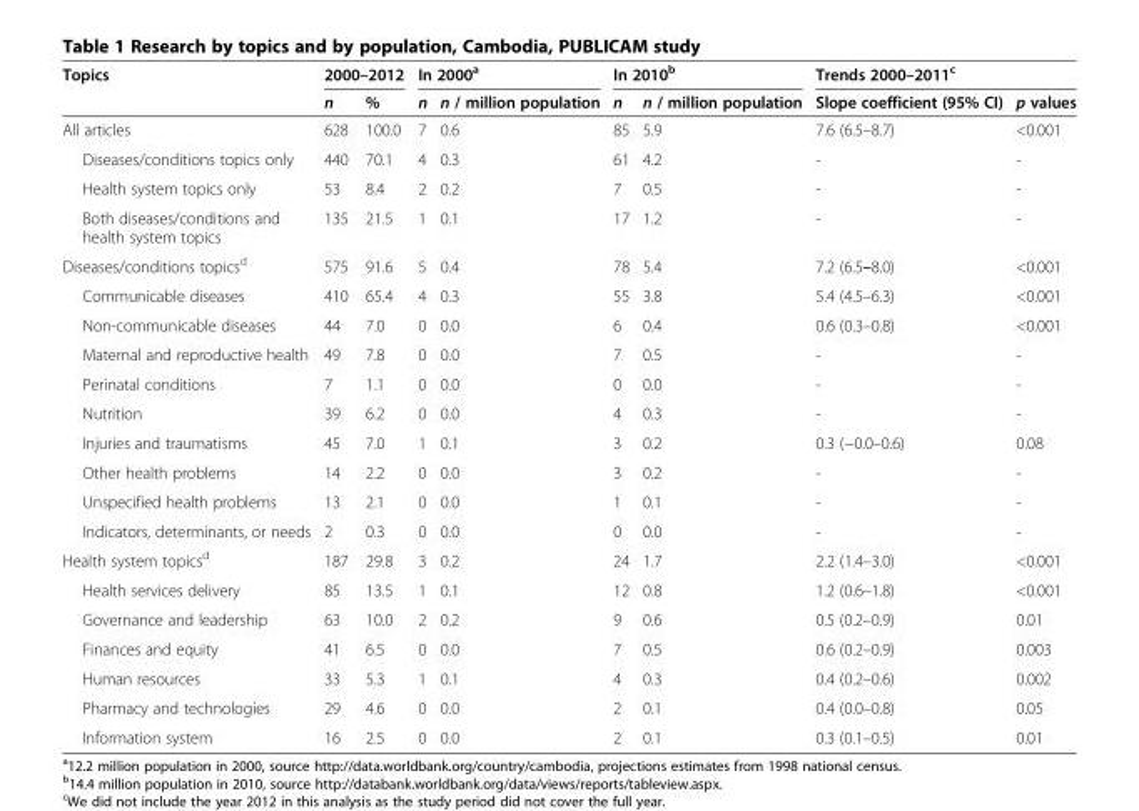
<table><thead><tr><td rowspan="2">Topics</td><td colspan="2">2000–2012</td><td colspan="2">In 2000<sup>a</sup></td><td colspan="2">In 2010<sup>b</sup></td><td colspan="2">Trends 2000–2011<sup>c</sup></td></tr><tr><td>n</td><td>%</td><td>n</td><td>n / million population</td><td>n</td><td>n / million population</td><td>Slope coefficient (95% CI)</td><td>p values</td></tr></thead><tbody><tr><td>All articles</td><td>628</td><td>100.0</td><td>7</td><td>0.6</td><td>85</td><td>5.9</td><td>7.6 (6.5–8.7)</td><td>&lt;0.001</td></tr><tr><td>Diseases/conditions topics only</td><td>440</td><td>70.1</td><td>4</td><td>0.3</td><td>61</td><td>4.2</td><td>-</td><td>-</td></tr><tr><td>Health system topics only</td><td>53</td><td>8.4</td><td>2</td><td>0.2</td><td>7</td><td>0.5</td><td>-</td><td>-</td></tr><tr><td>Both diseases/conditions and health system topics</td><td>135</td><td>21.5</td><td>1</td><td>0.1</td><td>17</td><td>1.2</td><td>-</td><td>-</td></tr><tr><td>Diseases/conditions topics<sup>d</sup></td><td>575</td><td>91.6</td><td>5</td><td>0.4</td><td>78</td><td>5.4</td><td>7.2 (6.5–8.0)</td><td>&lt;0.001</td></tr><tr><td>Communicable diseases</td><td>410</td><td>65.4</td><td>4</td><td>0.3</td><td>55</td><td>3.8</td><td>5.4 (4.5–6.3)</td><td>&lt;0.001</td></tr><tr><td>Non-communicable diseases</td><td>44</td><td>7.0</td><td>0</td><td>0.0</td><td>6</td><td>0.4</td><td>0.6 (0.3–0.8)</td><td>&lt;0.001</td></tr><tr><td>Maternal and reproductive health</td><td>49</td><td>7.8</td><td>0</td><td>0.0</td><td>7</td><td>0.5</td><td>-</td><td>-</td></tr><tr><td>Perinatal conditions</td><td>7</td><td>1.1</td><td>0</td><td>0.0</td><td>0</td><td>0.0</td><td>-</td><td>-</td></tr><tr><td>Nutrition</td><td>39</td><td>6.2</td><td>0</td><td>0.0</td><td>4</td><td>0.3</td><td>-</td><td>-</td></tr><tr><td>Injuries and traumatisms</td><td>45</td><td>7.0</td><td>1</td><td>0.1</td><td>3</td><td>0.2</td><td>0.3 (−0.0–0.6)</td><td>0.08</td></tr><tr><td>Other health problems</td><td>14</td><td>2.2</td><td>0</td><td>0.0</td><td>3</td><td>0.2</td><td>-</td><td>-</td></tr><tr><td>Unspecified health problems</td><td>13</td><td>2.1</td><td>0</td><td>0.0</td><td>1</td><td>0.1</td><td>-</td><td>-</td></tr><tr><td>Indicators, determinants, or needs</td><td>2</td><td>0.3</td><td>0</td><td>0.0</td><td>0</td><td>0.0</td><td>-</td><td>-</td></tr><tr><td>Health system topics<sup>d</sup></td><td>187</td><td>29.8</td><td>3</td><td>0.2</td><td>24</td><td>1.7</td><td>2.2 (1.4–3.0)</td><td>&lt;0.001</td></tr><tr><td>Health services delivery</td><td>85</td><td>13.5</td><td>1</td><td>0.1</td><td>12</td><td>0.8</td><td>1.2 (0.6–1.8)</td><td>&lt;0.001</td></tr><tr><td>Governance and leadership</td><td>63</td><td>10.0</td><td>2</td><td>0.2</td><td>9</td><td>0.6</td><td>0.5 (0.2–0.9)</td><td>0.01</td></tr><tr><td>Finances and equity</td><td>41</td><td>6.5</td><td>0</td><td>0.0</td><td>7</td><td>0.5</td><td>0.6 (0.2–0.9)</td><td>0.003</td></tr><tr><td>Human resources</td><td>33</td><td>5.3</td><td>1</td><td>0.1</td><td>4</td><td>0.3</td><td>0.4 (0.2–0.6)</td><td>0.002</td></tr><tr><td>Pharmacy and technologies</td><td>29</td><td>4.6</td><td>0</td><td>0.0</td><td>2</td><td>0.1</td><td>0.4 (0.0–0.8)</td><td>0.05</td></tr><tr><td>Information system</td><td>16</td><td>2.5</td><td>0</td><td>0.0</td><td>2</td><td>0.1</td><td>0.3 (0.1–0.5)</td><td>0.01</td></tr></tbody></table>